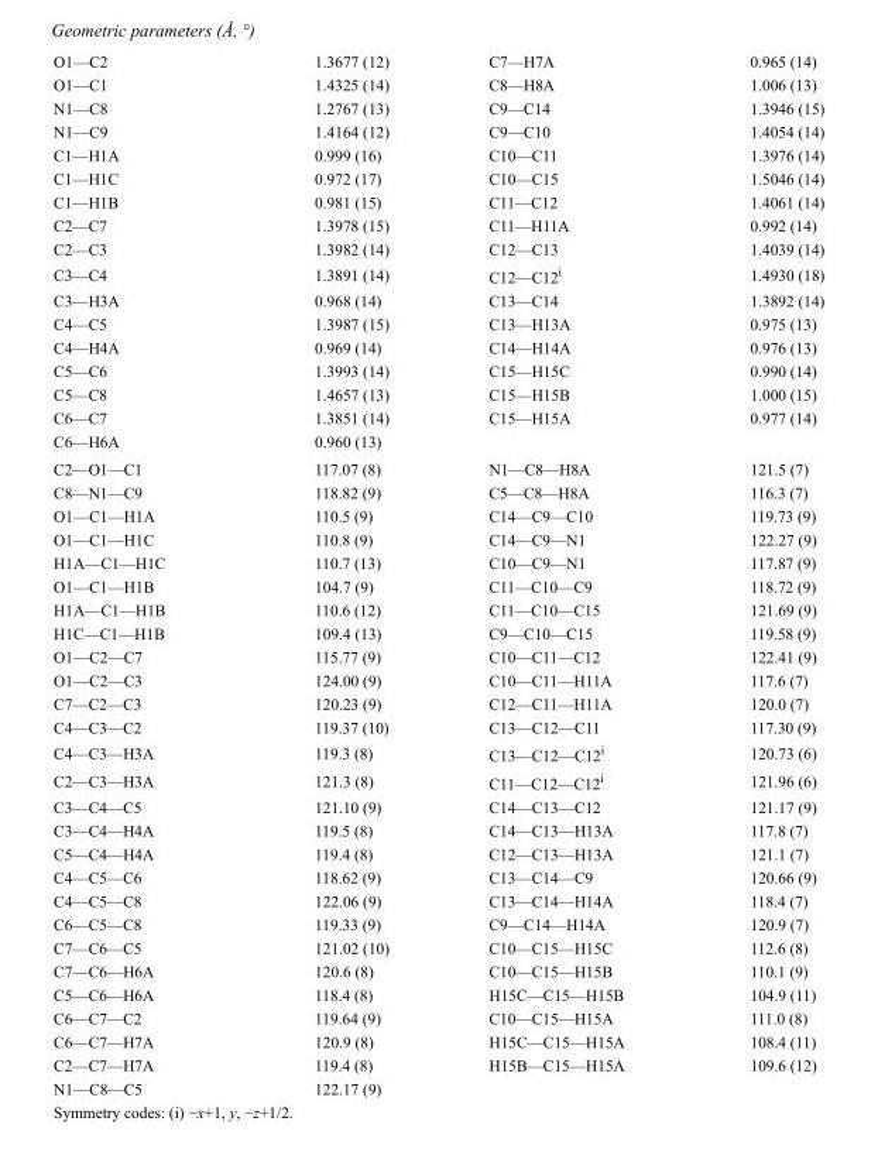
<table><tbody><tr><td>O1—C2</td><td>1.3677 (12)</td><td>C7—H7A</td><td>0.965 (14)</td></tr><tr><td>O1—C1</td><td>1.4325 (14)</td><td>C8—H8A</td><td>1.006 (13)</td></tr><tr><td>N1—C8</td><td>1.2767 (13)</td><td>C9—C14</td><td>1.3946 (15)</td></tr><tr><td>N1—C9</td><td>1.4164 (12)</td><td>C9—C10</td><td>1.4054 (14)</td></tr><tr><td>C1—H1A</td><td>0.999 (16)</td><td>C10—C11</td><td>1.3976 (14)</td></tr><tr><td>C1—H1C</td><td>0.972 (17)</td><td>C10—C15</td><td>1.5046 (14)</td></tr><tr><td>C1—H1B</td><td>0.981 (15)</td><td>C11—C12</td><td>1.4061 (14)</td></tr><tr><td>C2—C7</td><td>1.3978 (15)</td><td>C11—H11A</td><td>0.992 (14)</td></tr><tr><td>C2—C3</td><td>1.3982 (14)</td><td>C12—C13</td><td>1.4039 (14)</td></tr><tr><td>C3—C4</td><td>1.3891 (14)</td><td>C12—C12<sup>i</sup></td><td>1.4930 (18)</td></tr><tr><td>C3—H3A</td><td>0.968 (14)</td><td>C13—C14</td><td>1.3892 (14)</td></tr><tr><td>C4—C5</td><td>1.3987 (15)</td><td>C13—H13A</td><td>0.975 (13)</td></tr><tr><td>C4—H4A</td><td>0.969 (14)</td><td>C14—H14A</td><td>0.976 (13)</td></tr><tr><td>C5—C6</td><td>1.3993 (14)</td><td>C15—H15C</td><td>0.990 (14)</td></tr><tr><td>C5—C8</td><td>1.4657 (13)</td><td>C15—H15B</td><td>1.000 (15)</td></tr><tr><td>C6—C7</td><td>1.3851 (14)</td><td>C15—H15A</td><td>0.977 (14)</td></tr><tr><td>C6—H6A</td><td>0.960 (13)</td><td></td><td></td></tr><tr><td>C2—O1—C1</td><td>117.07 (8)</td><td>N1—C8—H8A</td><td>121.5 (7)</td></tr><tr><td>C8—N1—C9</td><td>118.82 (9)</td><td>C5—C8—H8A</td><td>116.3 (7)</td></tr><tr><td>O1—C1—H1A</td><td>110.5 (9)</td><td>C14—C9—C10</td><td>119.73 (9)</td></tr><tr><td>O1—C1—H1C</td><td>110.8 (9)</td><td>C14—C9—N1</td><td>122.27 (9)</td></tr><tr><td>H1A—C1—H1C</td><td>110.7 (13)</td><td>C10—C9—N1</td><td>117.87 (9)</td></tr><tr><td>O1—C1—H1B</td><td>104.7 (9)</td><td>C11—C10—C9</td><td>118.72 (9)</td></tr><tr><td>H1A—C1—H1B</td><td>110.6 (12)</td><td>C11—C10—C15</td><td>121.69 (9)</td></tr><tr><td>H1C—C1—H1B</td><td>109.4 (13)</td><td>C9—C10—C15</td><td>119.58 (9)</td></tr><tr><td>O1—C2—C7</td><td>115.77 (9)</td><td>C10—C11—C12</td><td>122.41 (9)</td></tr><tr><td>O1—C2—C3</td><td>124.00 (9)</td><td>C10—C11—H11A</td><td>117.6 (7)</td></tr><tr><td>C7—C2—C3</td><td>120.23 (9)</td><td>C12—C11—H11A</td><td>120.0 (7)</td></tr><tr><td>C4—C3—C2</td><td>119.37 (10)</td><td>C13—C12—C11</td><td>117.30 (9)</td></tr><tr><td>C4—C3—H3A</td><td>119.3 (8)</td><td>C13—C12—C12<sup>i</sup></td><td>120.73 (6)</td></tr><tr><td>C2—C3—H3A</td><td>121.3 (8)</td><td>C11—C12—C12<sup>i</sup></td><td>121.96 (6)</td></tr><tr><td>C3—C4—C5</td><td>121.10 (9)</td><td>C14—C13—C12</td><td>121.17 (9)</td></tr><tr><td>C3—C4—H4A</td><td>119.5 (8)</td><td>C14—C13—H13A</td><td>117.8 (7)</td></tr><tr><td>C5—C4—H4A</td><td>119.4 (8)</td><td>C12—C13—H13A</td><td>121.1 (7)</td></tr><tr><td>C4—C5—C6</td><td>118.62 (9)</td><td>C13—C14—C9</td><td>120.66 (9)</td></tr><tr><td>C4—C5—C8</td><td>122.06 (9)</td><td>C13—C14—H14A</td><td>118.4 (7)</td></tr><tr><td>C6—C5—C8</td><td>119.33 (9)</td><td>C9—C14—H14A</td><td>120.9 (7)</td></tr><tr><td>C7—C6—C5</td><td>121.02 (10)</td><td>C10—C15—H15C</td><td>112.6 (8)</td></tr><tr><td>C7—C6—H6A</td><td>120.6 (8)</td><td>C10—C15—H15B</td><td>110.1 (9)</td></tr><tr><td>C5—C6—H6A</td><td>118.4 (8)</td><td>H15C—C15—H15B</td><td>104.9 (11)</td></tr><tr><td>C6—C7—C2</td><td>119.64 (9)</td><td>C10—C15—H15A</td><td>111.0 (8)</td></tr><tr><td>C6—C7—H7A</td><td>120.9 (8)</td><td>H15C—C15—H15A</td><td>108.4 (11)</td></tr><tr><td>C2—C7—H7A</td><td>119.4 (8)</td><td>H15B—C15—H15A</td><td>109.6 (12)</td></tr><tr><td>N1—C8—C5</td><td>122.17 (9)</td><td></td><td></td></tr></tbody></table>